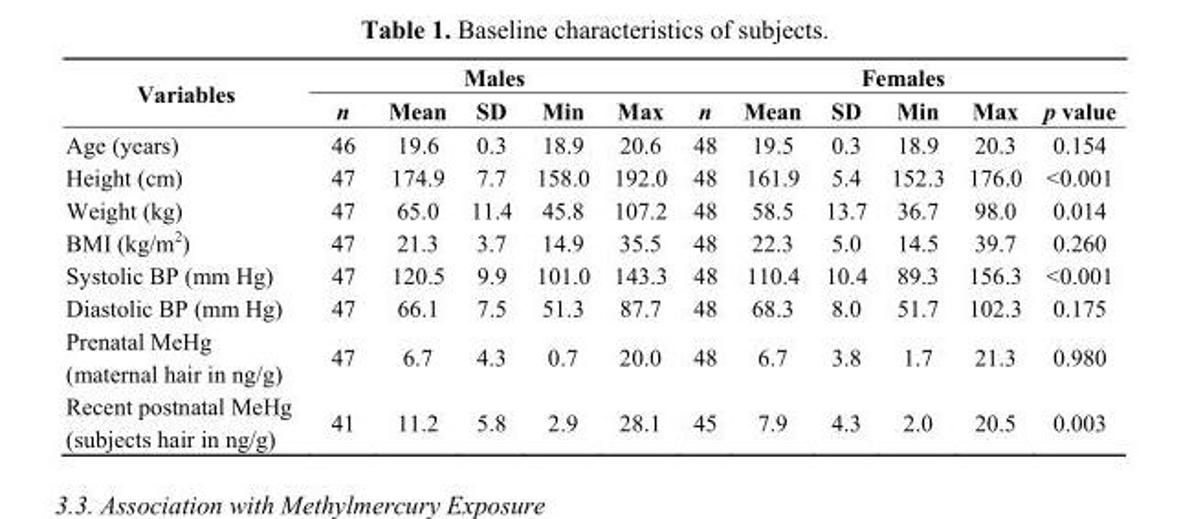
<table><thead><tr><td rowspan="2">Variables</td><td colspan="5">Males</td><td colspan="6">Females</td></tr><tr><td>n</td><td>Mean</td><td>SD</td><td>Min</td><td>Max</td><td>n</td><td>Mean</td><td>SD</td><td>Min</td><td>Max</td><td>p value</td></tr></thead><tbody><tr><td>Age (years)</td><td>46</td><td>19.6</td><td>0.3</td><td>18.9</td><td>20.6</td><td>48</td><td>19.5</td><td>0.3</td><td>18.9</td><td>20.3</td><td>0.154</td></tr><tr><td>Height (cm)</td><td>47</td><td>174.9</td><td>7.7</td><td>158.0</td><td>192.0</td><td>48</td><td>161.9</td><td>5.4</td><td>152.3</td><td>176.0</td><td>&lt;0.001</td></tr><tr><td>Weight (kg)</td><td>47</td><td>65.0</td><td>11.4</td><td>45.8</td><td>107.2</td><td>48</td><td>58.5</td><td>13.7</td><td>36.7</td><td>98.0</td><td>0.014</td></tr><tr><td>BMI (kg/m<sup>2</sup>)</td><td>47</td><td>21.3</td><td>3.7</td><td>14.9</td><td>35.5</td><td>48</td><td>22.3</td><td>5.0</td><td>14.5</td><td>39.7</td><td>0.260</td></tr><tr><td>Systolic BP (mm Hg)</td><td>47</td><td>120.5</td><td>9.9</td><td>101.0</td><td>143.3</td><td>48</td><td>110.4</td><td>10.4</td><td>89.3</td><td>156.3</td><td>&lt;0.001</td></tr><tr><td>Diastolic BP (mm Hg)</td><td>47</td><td>66.1</td><td>7.5</td><td>51.3</td><td>87.7</td><td>48</td><td>68.3</td><td>8.0</td><td>51.7</td><td>102.3</td><td>0.175</td></tr><tr><td>Prenatal MeHg (maternal hair in ng/g)</td><td>47</td><td>6.7</td><td>4.3</td><td>0.7</td><td>20.0</td><td>48</td><td>6.7</td><td>3.8</td><td>1.7</td><td>21.3</td><td>0.980</td></tr><tr><td>Recent postnatal MeHg (subjects hair in ng/g)</td><td>41</td><td>11.2</td><td>5.8</td><td>2.9</td><td>28.1</td><td>45</td><td>7.9</td><td>4.3</td><td>2.0</td><td>20.5</td><td>0.003</td></tr></tbody></table>